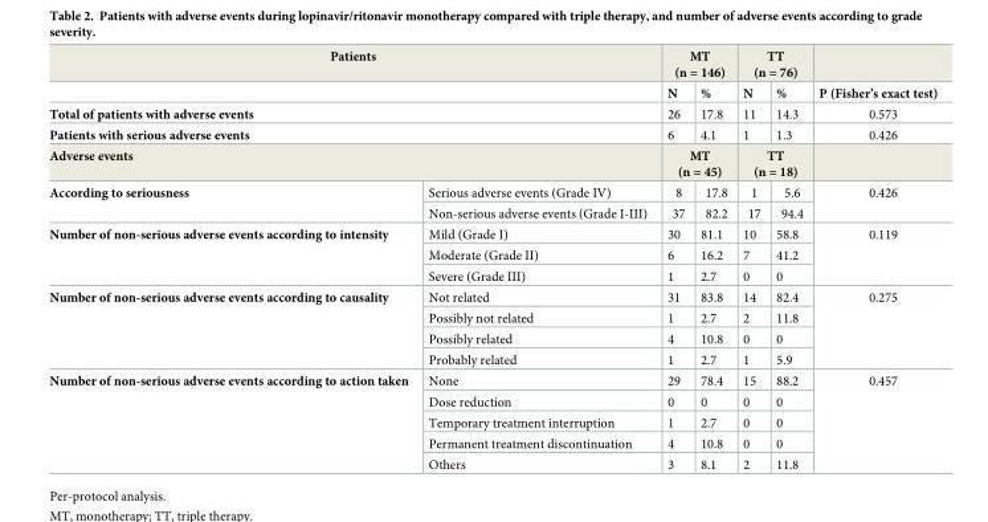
<table><tbody><tr><td rowspan="2" colspan="2">Patients</td><td colspan="2">MT (n = 146)</td><td colspan="2">TT (n = 76)</td><td></td></tr><tr><td>N</td><td>%</td><td>N</td><td>%</td><td>P (Fisher’s exact test)</td></tr><tr><td colspan="2">Total of patients with adverse events</td><td>26</td><td>17.8</td><td>11</td><td>14.3</td><td>0.573</td></tr><tr><td colspan="2">Patients with serious adverse events</td><td>6</td><td>4.1</td><td>1</td><td>1.3</td><td>0.426</td></tr><tr><td colspan="2">Adverse events</td><td colspan="2">MT (n = 45)</td><td colspan="2">TT (n = 18)</td><td></td></tr><tr><td rowspan="2">According to seriousness</td><td>Serious adverse events (Grade IV)</td><td>8</td><td>17.8</td><td>1</td><td>5.6</td><td rowspan="2">0.426</td></tr><tr><td>Non-serious adverse events (Grade I-III)</td><td>37</td><td>82.2</td><td>17</td><td>94.4</td></tr><tr><td rowspan="3">Number of non-serious adverse events according to intensity</td><td>Mild (Grade I)</td><td>30</td><td>81.1</td><td>10</td><td>58.8</td><td rowspan="3">0.119</td></tr><tr><td>Moderate (Grade II)</td><td>6</td><td>16.2</td><td>7</td><td>41.2</td></tr><tr><td>Severe (Grade III)</td><td>1</td><td>2.7</td><td>0</td><td>0</td></tr><tr><td rowspan="4">Number of non-serious adverse events according to causality</td><td>Not related</td><td>31</td><td>83.8</td><td>14</td><td>82.4</td><td rowspan="4">0.275</td></tr><tr><td>Possibly not related</td><td>1</td><td>2.7</td><td>2</td><td>11.8</td></tr><tr><td>Possibly related</td><td>4</td><td>10.8</td><td>0</td><td>0</td></tr><tr><td>Probably related</td><td>1</td><td>2.7</td><td>1</td><td>5.9</td></tr><tr><td rowspan="5">Number of non-serious adverse events according to action taken</td><td>None</td><td>29</td><td>78.4</td><td>15</td><td>88.2</td><td rowspan="5">0.457</td></tr><tr><td>Dose reduction</td><td>0</td><td>0</td><td>0</td><td>0</td></tr><tr><td>Temporary treatment interruption</td><td>1</td><td>2.7</td><td>0</td><td>0</td></tr><tr><td>Permanent treatment discontinuation</td><td>4</td><td>10.8</td><td>0</td><td>0</td></tr><tr><td>Others</td><td>3</td><td>8.1</td><td>2</td><td>11.8</td></tr></tbody></table>